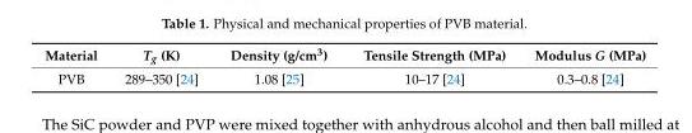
<table><thead><tr><td>Material</td><td>T<sub>g</sub> (K)</td><td>Density (g/cm<sup>3</sup>)</td><td>Tensile Strength (MPa)</td><td>Modulus G (MPa)</td></tr></thead><tbody><tr><td>PVB</td><td>289–350 [24]</td><td>1.08 [25]</td><td>10–17 [24]</td><td>0.3–0.8 [24]</td></tr></tbody></table>